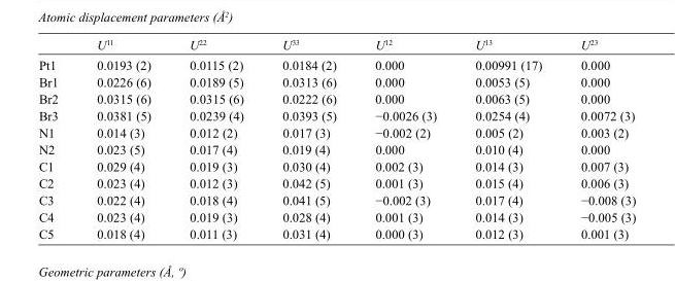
<table><thead><tr><td></td><td>U<sup>11</sup></td><td>U<sup>22</sup></td><td>U<sup>33</sup></td><td>U<sup>12</sup></td><td>U<sup>13</sup></td><td>U<sup>23</sup></td></tr></thead><tbody><tr><td>Pt1</td><td>0.0193 (2)</td><td>0.0115 (2)</td><td>0.0184 (2)</td><td>0.000</td><td>0.00991 (17)</td><td>0.000</td></tr><tr><td>Br1</td><td>0.0226 (6)</td><td>0.0189 (5)</td><td>0.0313 (6)</td><td>0.000</td><td>0.0053 (5)</td><td>0.000</td></tr><tr><td>Br2</td><td>0.0315 (6)</td><td>0.0315 (6)</td><td>0.0222 (6)</td><td>0.000</td><td>0.0063 (5)</td><td>0.000</td></tr><tr><td>Br3</td><td>0.0381 (5)</td><td>0.0239 (4)</td><td>0.0393 (5)</td><td>−0.0026 (3)</td><td>0.0254 (4)</td><td>0.0072 (3)</td></tr><tr><td>N1</td><td>0.014 (3)</td><td>0.012 (2)</td><td>0.017 (3)</td><td>−0.002 (2)</td><td>0.005 (2)</td><td>0.003 (2)</td></tr><tr><td>N2</td><td>0.023 (5)</td><td>0.017 (4)</td><td>0.019 (4)</td><td>0.000</td><td>0.010 (4)</td><td>0.000</td></tr><tr><td>C1</td><td>0.029 (4)</td><td>0.019 (3)</td><td>0.030 (4)</td><td>0.002 (3)</td><td>0.014 (3)</td><td>0.007 (3)</td></tr><tr><td>C2</td><td>0.023 (4)</td><td>0.012 (3)</td><td>0.042 (5)</td><td>0.001 (3)</td><td>0.015 (4)</td><td>0.006 (3)</td></tr><tr><td>C3</td><td>0.022 (4)</td><td>0.018 (4)</td><td>0.041 (5)</td><td>−0.002 (3)</td><td>0.017 (4)</td><td>−0.008 (3)</td></tr><tr><td>C4</td><td>0.023 (4)</td><td>0.019 (3)</td><td>0.028 (4)</td><td>0.001 (3)</td><td>0.014 (3)</td><td>−0.005 (3)</td></tr><tr><td>C5</td><td>0.018 (4)</td><td>0.011 (3)</td><td>0.031 (4)</td><td>0.000 (3)</td><td>0.012 (3)</td><td>0.001 (3)</td></tr></tbody></table>